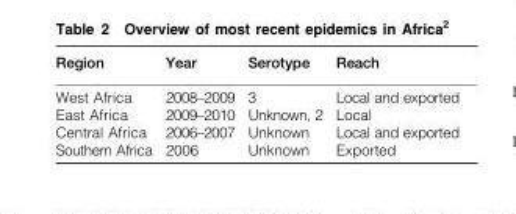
<table><thead><tr><td>Region</td><td>Year</td><td>Serotype</td><td>Reach</td></tr></thead><tbody><tr><td>West Africa</td><td>2008–2009</td><td>3</td><td>Local and exported</td></tr><tr><td>East Africa</td><td>2009–2010</td><td>Unknown, 2</td><td>Local</td></tr><tr><td>Central Africa</td><td>2006–2007</td><td>Unknown</td><td>Local and exported</td></tr><tr><td>Southern Africa</td><td>2006</td><td>Unknown</td><td>Exported</td></tr></tbody></table>